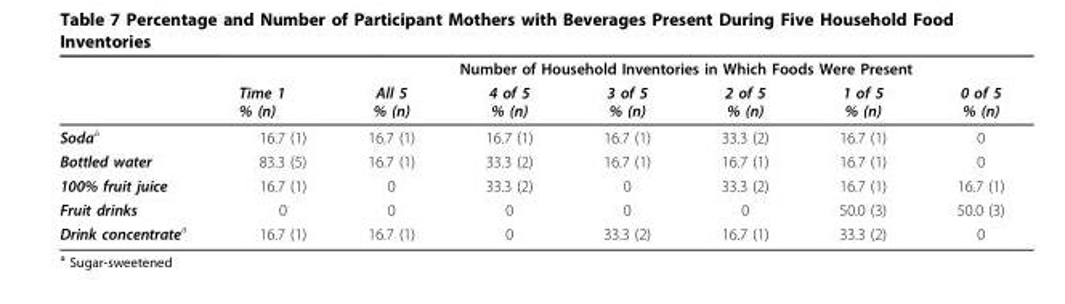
<table><thead><tr><td rowspan="2"></td><td rowspan="2">Time 1 % (n)</td><td colspan="6">Number of Household Inventories in Which Foods Were Present</td></tr><tr><td>All 5 % (n)</td><td>4 of 5 % (n)</td><td>3 of 5 % (n)</td><td>2 of 5 % (n)</td><td>1 of 5 % (n)</td><td>0 of 5 % (n)</td></tr></thead><tbody><tr><td>Soda<sup>a</sup></td><td>16.7 (1)</td><td>16.7 (1)</td><td>16.7 (1)</td><td>16.7 (1)</td><td>33.3 (2)</td><td>16.7 (1)</td><td>0</td></tr><tr><td>Bottled water</td><td>83.3 (5)</td><td>16.7 (1)</td><td>33.3 (2)</td><td>16.7 (1)</td><td>16.7 (1)</td><td>16.7 (1)</td><td>0</td></tr><tr><td>100% fruit juice</td><td>16.7 (1)</td><td>0</td><td>33.3 (2)</td><td>0</td><td>33.3 (2)</td><td>16.7 (1)</td><td>16.7 (1)</td></tr><tr><td>Fruit drinks</td><td>0</td><td>0</td><td>0</td><td>0</td><td>0</td><td>50.0 (3)</td><td>50.0 (3)</td></tr><tr><td>Drink concentrate<sup>a</sup></td><td>16.7 (1)</td><td>16.7 (1)</td><td>0</td><td>33.3 (2)</td><td>16.7 (1)</td><td>33.3 (2)</td><td>0</td></tr></tbody></table>